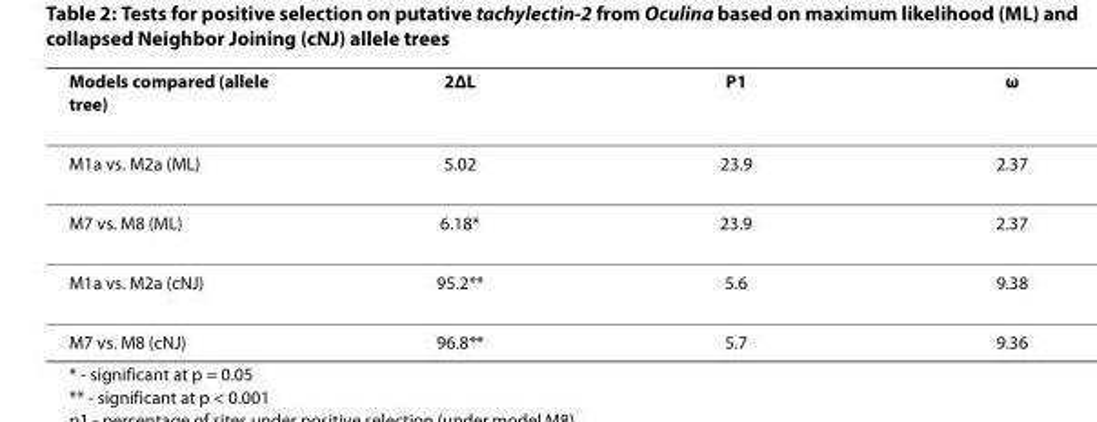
<table><thead><tr><td>Models compared (allele tree)</td><td>2ΔL</td><td>P1</td><td>ω</td></tr></thead><tbody><tr><td>M1a vs. M2a (ML)</td><td>5.02</td><td>23.9</td><td>2.37</td></tr><tr><td>M7 vs. M8 (ML)</td><td>6.18*</td><td>23.9</td><td>2.37</td></tr><tr><td>M1a vs. M2a (cNJ)</td><td>95.2**</td><td>5.6</td><td>9.38</td></tr><tr><td>M7 vs. M8 (cNJ)</td><td>96.8**</td><td>5.7</td><td>9.36</td></tr></tbody></table>